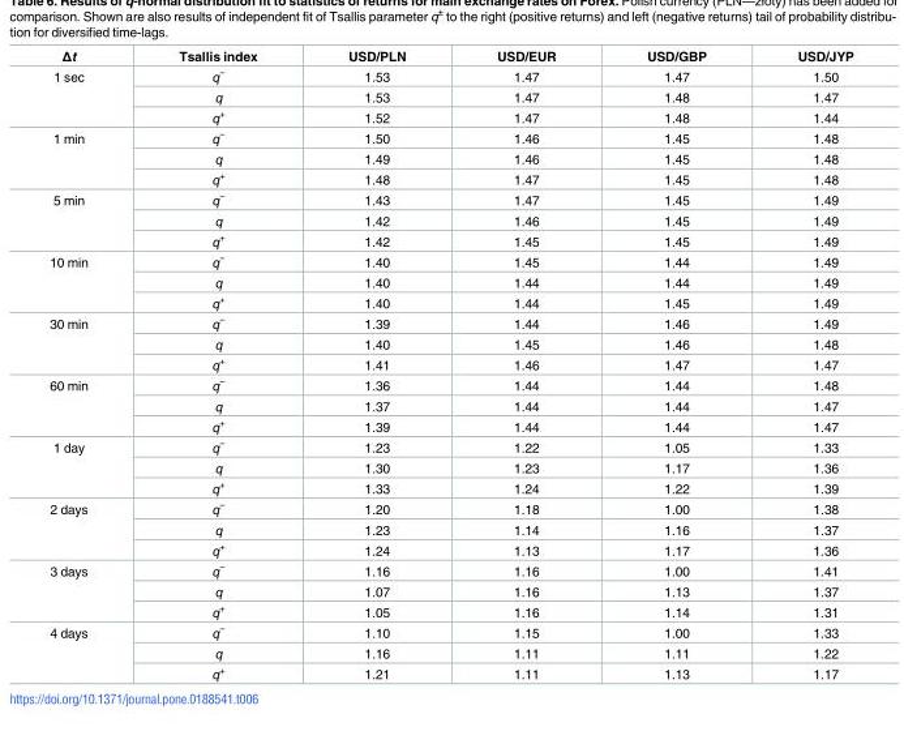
<table><thead><tr><td>Δt</td><td>Tsallis index</td><td>USD/PLN</td><td>USD/EUR</td><td>USD/GBP</td><td>USD/JYP</td></tr></thead><tbody><tr><td rowspan="3">1 sec</td><td>q<sup>−</sup></td><td>1.53</td><td>1.47</td><td>1.47</td><td>1.50</td></tr><tr><td>q</td><td>1.53</td><td>1.47</td><td>1.48</td><td>1.47</td></tr><tr><td>q<sup>+</sup></td><td>1.52</td><td>1.47</td><td>1.48</td><td>1.44</td></tr><tr><td rowspan="3">1 min</td><td>q<sup>−</sup></td><td>1.50</td><td>1.46</td><td>1.45</td><td>1.48</td></tr><tr><td>q</td><td>1.49</td><td>1.46</td><td>1.45</td><td>1.48</td></tr><tr><td>q<sup>+</sup></td><td>1.48</td><td>1.47</td><td>1.45</td><td>1.48</td></tr><tr><td rowspan="3">5 min</td><td>q<sup>−</sup></td><td>1.43</td><td>1.47</td><td>1.45</td><td>1.49</td></tr><tr><td>q</td><td>1.42</td><td>1.46</td><td>1.45</td><td>1.49</td></tr><tr><td>q<sup>+</sup></td><td>1.42</td><td>1.45</td><td>1.45</td><td>1.49</td></tr><tr><td rowspan="3">10 min</td><td>q<sup>−</sup></td><td>1.40</td><td>1.45</td><td>1.44</td><td>1.49</td></tr><tr><td>q</td><td>1.40</td><td>1.44</td><td>1.44</td><td>1.49</td></tr><tr><td>q<sup>+</sup></td><td>1.40</td><td>1.44</td><td>1.45</td><td>1.49</td></tr><tr><td rowspan="3">30 min</td><td>q<sup>−</sup></td><td>1.39</td><td>1.44</td><td>1.46</td><td>1.49</td></tr><tr><td>q</td><td>1.40</td><td>1.45</td><td>1.46</td><td>1.48</td></tr><tr><td>q<sup>+</sup></td><td>1.41</td><td>1.46</td><td>1.47</td><td>1.47</td></tr><tr><td rowspan="3">60 min</td><td>q<sup>−</sup></td><td>1.36</td><td>1.44</td><td>1.44</td><td>1.48</td></tr><tr><td>q</td><td>1.37</td><td>1.44</td><td>1.44</td><td>1.47</td></tr><tr><td>q<sup>+</sup></td><td>1.39</td><td>1.44</td><td>1.44</td><td>1.47</td></tr><tr><td rowspan="3">1 day</td><td>q<sup>−</sup></td><td>1.23</td><td>1.22</td><td>1.05</td><td>1.33</td></tr><tr><td>q</td><td>1.30</td><td>1.23</td><td>1.17</td><td>1.36</td></tr><tr><td>q<sup>+</sup></td><td>1.33</td><td>1.24</td><td>1.22</td><td>1.39</td></tr><tr><td rowspan="3">2 days</td><td>q<sup>−</sup></td><td>1.20</td><td>1.18</td><td>1.00</td><td>1.38</td></tr><tr><td>q</td><td>1.23</td><td>1.14</td><td>1.16</td><td>1.37</td></tr><tr><td>q<sup>+</sup></td><td>1.24</td><td>1.13</td><td>1.17</td><td>1.36</td></tr><tr><td rowspan="3">3 days</td><td>q<sup>−</sup></td><td>1.16</td><td>1.16</td><td>1.00</td><td>1.41</td></tr><tr><td>q</td><td>1.07</td><td>1.16</td><td>1.13</td><td>1.37</td></tr><tr><td>q<sup>+</sup></td><td>1.05</td><td>1.16</td><td>1.14</td><td>1.31</td></tr><tr><td rowspan="3">4 days</td><td>q<sup>−</sup></td><td>1.10</td><td>1.15</td><td>1.00</td><td>1.33</td></tr><tr><td>q</td><td>1.16</td><td>1.11</td><td>1.11</td><td>1.22</td></tr><tr><td>q<sup>+</sup></td><td>1.21</td><td>1.11</td><td>1.13</td><td>1.17</td></tr></tbody></table>